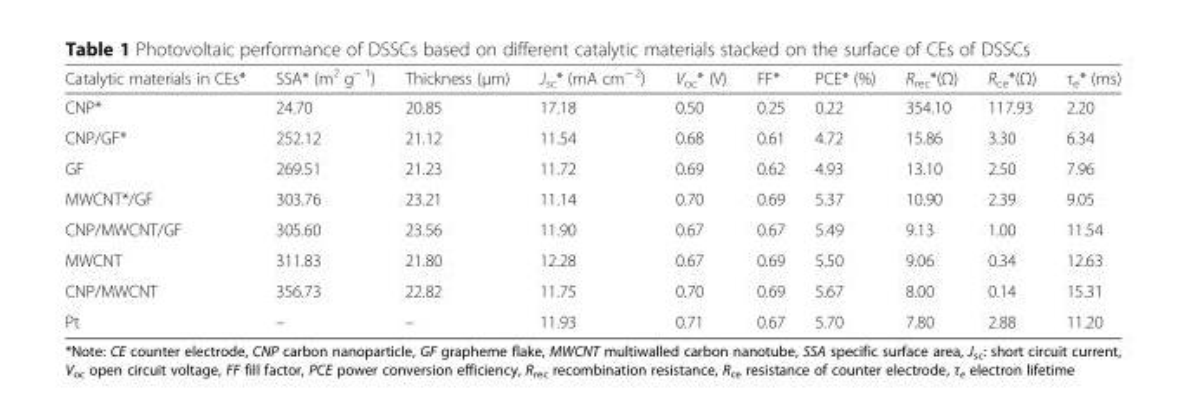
<table><thead><tr><td>Catalytic materials in CEs*</td><td>SSA* (m<sup>2</sup> g<sup>− 1</sup>)</td><td>Thickness (μm)</td><td>J<sub>sc</sub>* (mA cm<sup>− 2</sup>)</td><td>V<sub>oc</sub>* (V)</td><td>FF*</td><td>PCE* (%)</td><td>R<sub>rec</sub>*(Ω)</td><td>R<sub>ce</sub>*(Ω)</td><td>τ<sub>e</sub>* (ms)</td></tr></thead><tbody><tr><td>CNP*</td><td>24.70</td><td>20.85</td><td>17.18</td><td>0.50</td><td>0.25</td><td>0.22</td><td>354.10</td><td>117.93</td><td>2.20</td></tr><tr><td>CNP/GF*</td><td>252.12</td><td>21.12</td><td>11.54</td><td>0.68</td><td>0.61</td><td>4.72</td><td>15.86</td><td>3.30</td><td>6.34</td></tr><tr><td>GF</td><td>269.51</td><td>21.23</td><td>11.72</td><td>0.69</td><td>0.62</td><td>4.93</td><td>13.10</td><td>2.50</td><td>7.96</td></tr><tr><td>MWCNT*/GF</td><td>303.76</td><td>23.21</td><td>11.14</td><td>0.70</td><td>0.69</td><td>5.37</td><td>10.90</td><td>2.39</td><td>9.05</td></tr><tr><td>CNP/MWCNT/GF</td><td>305.60</td><td>23.56</td><td>11.90</td><td>0.67</td><td>0.67</td><td>5.49</td><td>9.13</td><td>1.00</td><td>11.54</td></tr><tr><td>MWCNT</td><td>311.83</td><td>21.80</td><td>12.28</td><td>0.67</td><td>0.69</td><td>5.50</td><td>9.06</td><td>0.34</td><td>12.63</td></tr><tr><td>CNP/MWCNT</td><td>356.73</td><td>22.82</td><td>11.75</td><td>0.70</td><td>0.69</td><td>5.67</td><td>8.00</td><td>0.14</td><td>15.31</td></tr><tr><td>Pt</td><td>–</td><td>–</td><td>11.93</td><td>0.71</td><td>0.67</td><td>5.70</td><td>7.80</td><td>2.88</td><td>11.20</td></tr></tbody></table>